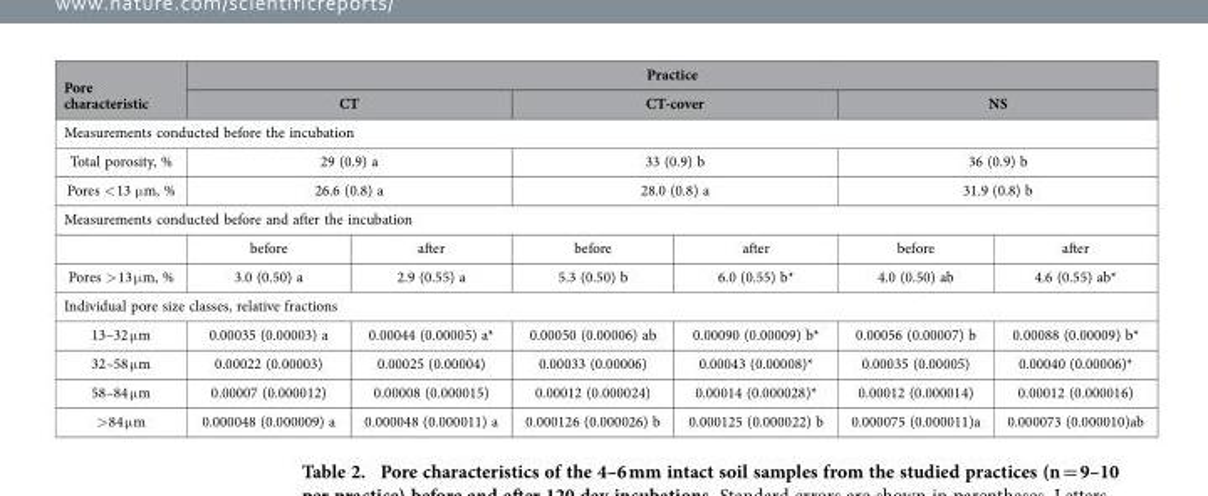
<table><thead><tr><td rowspan="2">Pore characteristic</td><td colspan="6">Practice</td></tr><tr><td colspan="2">CT</td><td colspan="2">CT-cover</td><td colspan="2">NS</td></tr></thead><tbody><tr><td colspan="7">Measurements conducted before the incubation</td></tr><tr><td>Total porosity, %</td><td colspan="2">29 (0.9) a</td><td colspan="2">33 (0.9) b</td><td colspan="2">36 (0.9) b</td></tr><tr><td>Pores &lt; 13 μ m, %</td><td colspan="2">26.6 (0.8) a</td><td colspan="2">28.0 (0.8) a</td><td colspan="2">31.9 (0.8) b</td></tr><tr><td colspan="7">Measurements conducted before and after the incubation</td></tr><tr><td></td><td>before</td><td>after</td><td>before</td><td>after</td><td>before</td><td>after</td></tr><tr><td>Pores &gt; 13 μ m, %</td><td>3.0 (0.50) a</td><td>2.9 (0.55) a</td><td>5.3 (0.50) b</td><td>6.0 (0.55) b*</td><td>4.0 (0.50) ab</td><td>4.6 (0.55) ab*</td></tr><tr><td colspan="7">Individual pore size classes, relative fractions</td></tr><tr><td>13–32 μ m</td><td>0.00035 (0.00003) a</td><td>0.00044 (0.00005) a*</td><td>0.00050 (0.00006) ab</td><td>0.00090 (0.00009) b*</td><td>0.00056 (0.00007) b</td><td>0.00088 (0.00009) b*</td></tr><tr><td>32–58 μ m</td><td>0.00022 (0.00003)</td><td>0.00025 (0.00004)</td><td>0.00033 (0.00006)</td><td>0.00043 (0.00008)*</td><td>0.00035 (0.00005)</td><td>0.00040 (0.00006)*</td></tr><tr><td>58–84 μ m</td><td>0.00007 (0.000012)</td><td>0.00008 (0.000015)</td><td>0.00012 (0.000024)</td><td>0.00014 (0.000028)*</td><td>0.00012 (0.000014)</td><td>0.00012 (0.000016)</td></tr><tr><td>&gt; 84 μ m</td><td>0.000048 (0.000009) a</td><td>0.000048 (0.000011) a</td><td>0.000126 (0.000026) b</td><td>0.000125 (0.000022) b</td><td>0.000075 (0.000011)a</td><td>0.000073 (0.000010)ab</td></tr></tbody></table>